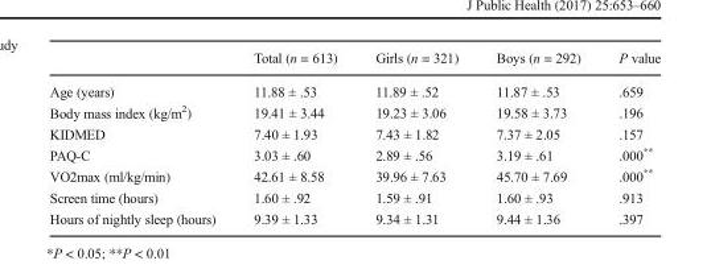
<table><thead><tr><td></td><td>Total (n = 613)</td><td>Girls (n = 321)</td><td>Boys (n = 292)</td><td>P value</td></tr></thead><tbody><tr><td>Age (years)</td><td>11.88 ± .53</td><td>11.89 ± .52</td><td>11.87 ± .53</td><td>.659</td></tr><tr><td>Body mass index (kg/m<sup>2</sup>)</td><td>19.41 ± 3.44</td><td>19.23 ± 3.06</td><td>19.58 ± 3.73</td><td>.196</td></tr><tr><td>KIDMED</td><td>7.40 ± 1.93</td><td>7.43 ± 1.82</td><td>7.37 ± 2.05</td><td>.157</td></tr><tr><td>PAQ-C</td><td>3.03 ± .60</td><td>2.89 ± .56</td><td>3.19 ± .61</td><td>.000**</td></tr><tr><td>VO2max (ml/kg/min)</td><td>42.61 ± 8.58</td><td>39.96 ± 7.63</td><td>45.70 ± 7.69</td><td>.000**</td></tr><tr><td>Screen time (hours)</td><td>1.60 ± .92</td><td>1.59 ± .91</td><td>1.60 ± .93</td><td>.913</td></tr><tr><td>Hours of nightly sleep (hours)</td><td>9.39 ± 1.33</td><td>9.34 ± 1.31</td><td>9.44 ± 1.36</td><td>.397</td></tr></tbody></table>